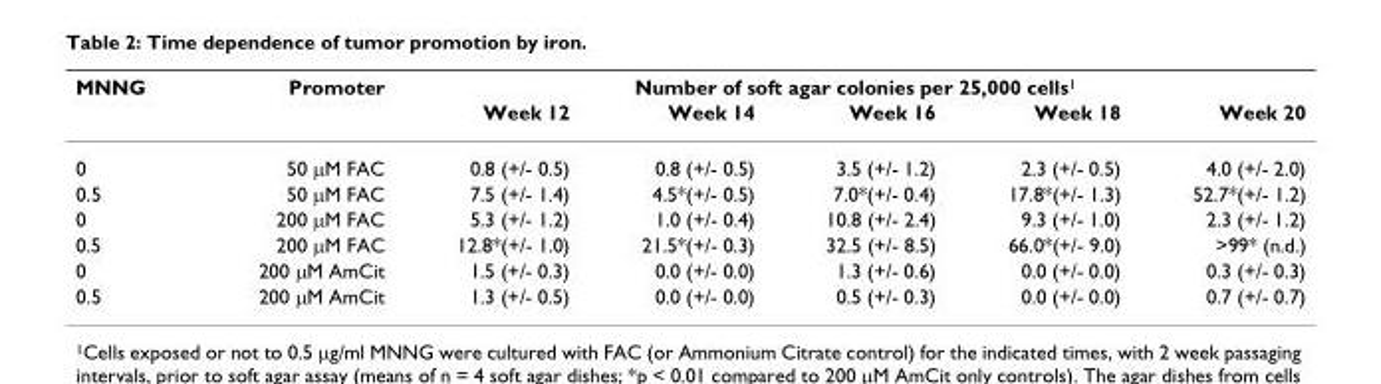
<table><thead><tr><td rowspan="2">MNNG</td><td rowspan="2">Promoter</td><td colspan="5">Number of soft agar colonies per 25,000 cells<sup>1</sup></td></tr><tr><td>Week 12</td><td>Week 14</td><td>Week 16</td><td>Week 18</td><td>Week 20</td></tr></thead><tbody><tr><td>0</td><td>50 μM FAC</td><td>0.8 (+/- 0.5)</td><td>0.8 (+/- 0.5)</td><td>3.5 (+/- 1.2)</td><td>2.3 (+/- 0.5)</td><td>4.0 (+/- 2.0)</td></tr><tr><td>0.5</td><td>50 μM FAC</td><td>7.5 (+/- 1.4)</td><td>4.5*(+/- 0.5)</td><td>7.0*(+/- 0.4)</td><td>17.8*(+/- 1.3)</td><td>52.7*(+/- 1.2)</td></tr><tr><td>0</td><td>200 μM FAC</td><td>5.3 (+/- 1.2)</td><td>1.0 (+/- 0.4)</td><td>10.8 (+/- 2.4)</td><td>9.3 (+/- 1.0)</td><td>2.3 (+/- 1.2)</td></tr><tr><td>0.5</td><td>200 μM FAC</td><td>12.8*(+/- 1.0)</td><td>21.5*(+/- 0.3)</td><td>32.5 (+/- 8.5)</td><td>66.0*(+/- 9.0)</td><td>&gt;99* (n.d.)</td></tr><tr><td>0</td><td>200 μM AmCit</td><td>1.5 (+/- 0.3)</td><td>0.0 (+/- 0.0)</td><td>1.3 (+/- 0.6)</td><td>0.0 (+/- 0.0)</td><td>0.3 (+/- 0.3)</td></tr><tr><td>0.5</td><td>200 μM AmCit</td><td>1.3 (+/- 0.5)</td><td>0.0 (+/- 0.0)</td><td>0.5 (+/- 0.3)</td><td>0.0 (+/- 0.0)</td><td>0.7 (+/- 0.7)</td></tr></tbody></table>